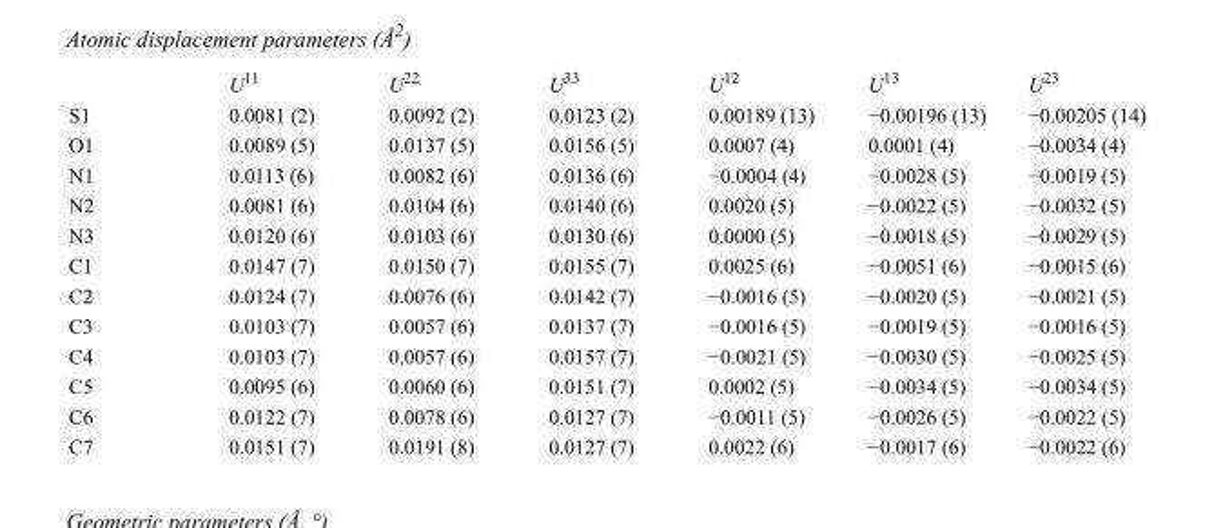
<table><thead><tr><td></td><td>U<sup>11</sup></td><td>U<sup>22</sup></td><td>U<sup>33</sup></td><td>U<sup>12</sup></td><td>U<sup>13</sup></td><td>U<sup>23</sup></td></tr></thead><tbody><tr><td>S1</td><td>0.0081 (2)</td><td>0.0092 (2)</td><td>0.0123 (2)</td><td>0.00189 (13)</td><td>−0.00196 (13)</td><td>−0.00205 (14)</td></tr><tr><td>O1</td><td>0.0089 (5)</td><td>0.0137 (5)</td><td>0.0156 (5)</td><td>0.0007 (4)</td><td>0.0001 (4)</td><td>−0.0034 (4)</td></tr><tr><td>N1</td><td>0.0113 (6)</td><td>0.0082 (6)</td><td>0.0136 (6)</td><td>−0.0004 (4)</td><td>−0.0028 (5)</td><td>−0.0019 (5)</td></tr><tr><td>N2</td><td>0.0081 (6)</td><td>0.0104 (6)</td><td>0.0140 (6)</td><td>0.0020 (5)</td><td>−0.0022 (5)</td><td>−0.0032 (5)</td></tr><tr><td>N3</td><td>0.0120 (6)</td><td>0.0103 (6)</td><td>0.0130 (6)</td><td>0.0000 (5)</td><td>−0.0018 (5)</td><td>−0.0029 (5)</td></tr><tr><td>C1</td><td>0.0147 (7)</td><td>0.0150 (7)</td><td>0.0155 (7)</td><td>0.0025 (6)</td><td>−0.0051 (6)</td><td>−0.0015 (6)</td></tr><tr><td>C2</td><td>0.0124 (7)</td><td>0.0076 (6)</td><td>0.0142 (7)</td><td>−0.0016 (5)</td><td>−0.0020 (5)</td><td>−0.0021 (5)</td></tr><tr><td>C3</td><td>0.0103 (7)</td><td>0.0057 (6)</td><td>0.0137 (7)</td><td>−0.0016 (5)</td><td>−0.0019 (5)</td><td>−0.0016 (5)</td></tr><tr><td>C4</td><td>0.0103 (7)</td><td>0.0057 (6)</td><td>0.0157 (7)</td><td>−0.0021 (5)</td><td>−0.0030 (5)</td><td>−0.0025 (5)</td></tr><tr><td>C5</td><td>0.0095 (6)</td><td>0.0060 (6)</td><td>0.0151 (7)</td><td>0.0002 (5)</td><td>−0.0034 (5)</td><td>−0.0034 (5)</td></tr><tr><td>C6</td><td>0.0122 (7)</td><td>0.0078 (6)</td><td>0.0127 (7)</td><td>−0.0011 (5)</td><td>−0.0026 (5)</td><td>−0.0022 (5)</td></tr><tr><td>C7</td><td>0.0151 (7)</td><td>0.0191 (8)</td><td>0.0127 (7)</td><td>0.0022 (6)</td><td>−0.0017 (6)</td><td>−0.0022 (6)</td></tr></tbody></table>